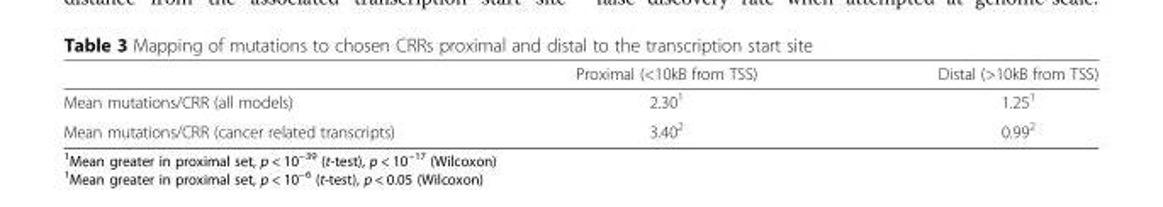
<table><thead><tr><td></td><td>Proximal (&lt;10kB from TSS)</td><td>Distal (&gt;10kB from TSS)</td></tr></thead><tbody><tr><td>Mean mutations/CRR (all models)</td><td>2.30<sup>1</sup></td><td>1.25<sup>1</sup></td></tr><tr><td>Mean mutations/CRR (cancer related transcripts)</td><td>3.40<sup>2</sup></td><td>0.99<sup>2</sup></td></tr></tbody></table>